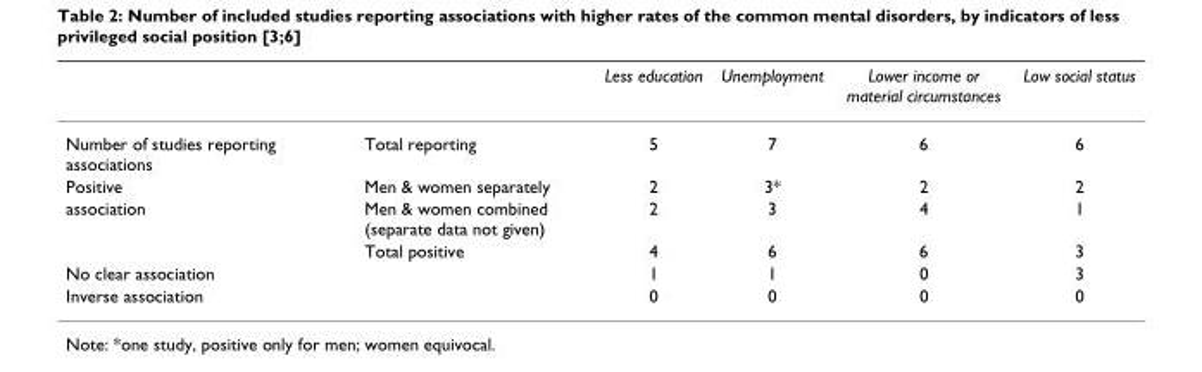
<table><thead><tr><td></td><td></td><td>Less education</td><td>Unemployment</td><td>Lower income or material circumstances</td><td>Low social status</td></tr></thead><tbody><tr><td>Number of studies reporting associations</td><td>Total reporting</td><td>5</td><td>7</td><td>6</td><td>6</td></tr><tr><td>Positive</td><td>Men &amp; women separately</td><td>2</td><td>3*</td><td>2</td><td>2</td></tr><tr><td rowspan="2">association</td><td>Men &amp; women combined (separate data not given)</td><td>2</td><td>3</td><td>4</td><td>1</td></tr><tr><td>Total positive</td><td>4</td><td>6</td><td>6</td><td>3</td></tr><tr><td>No clear association</td><td></td><td>1</td><td>1</td><td>0</td><td>3</td></tr><tr><td>Inverse association</td><td></td><td>0</td><td>0</td><td>0</td><td>0</td></tr></tbody></table>